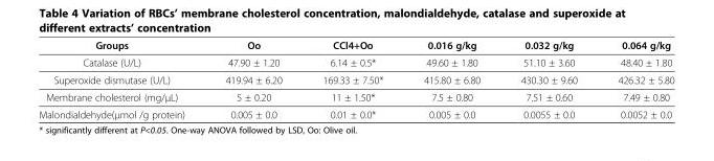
<table><thead><tr><td>Groups</td><td>Oo</td><td>CCl4+Oo</td><td>0.016 g/kg</td><td>0.032 g/kg</td><td>0.064 g/kg</td></tr></thead><tbody><tr><td>Catalase (U/L)</td><td>47.90 ± 1.20</td><td>6.14 ± 0.5*</td><td>49.60 ± 1.80</td><td>51.10 ± 3.60</td><td>48.40 ± 1.80</td></tr><tr><td>Superoxide dismutase (U/L)</td><td>419.94 ± 6.20</td><td>169.33 ± 7.50*</td><td>415.80 ± 6.80</td><td>430.30 ± 9.60</td><td>426.32 ± 5.80</td></tr><tr><td>Membrane cholesterol (mg/μL)</td><td>5 ± 0.20</td><td>11 ± 1.50*</td><td>7.5 ± 0.80</td><td>7.51 ± 0.60</td><td>7.49 ± 0.80</td></tr><tr><td>Malondialdehyde(μmol /g protein)</td><td>0.005 ± 0.0</td><td>0.01 ± 0.0*</td><td>0.005 ± 0.0</td><td>0.0055 ± 0.0</td><td>0.0052 ± 0.0</td></tr></tbody></table>